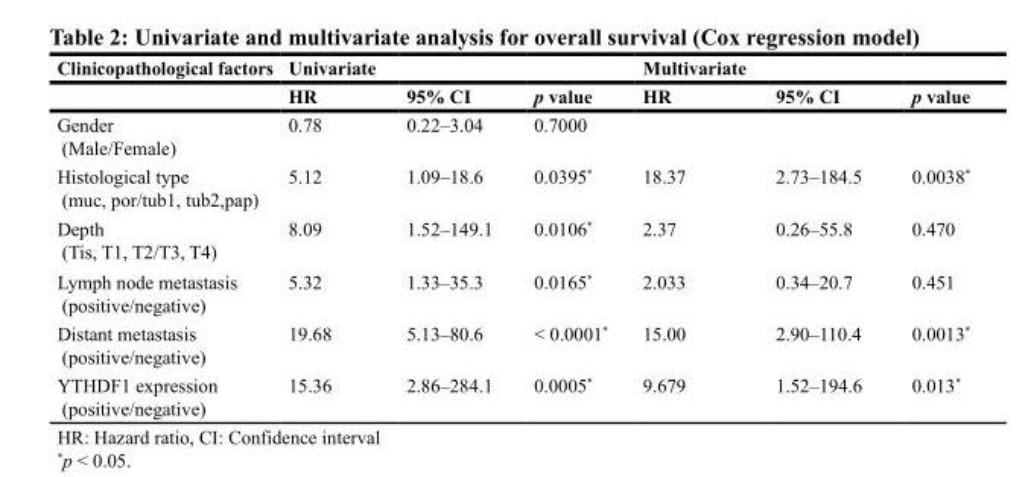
<table><thead><tr><td rowspan="2">Clinicopathological factors</td><td rowspan="2">Univariate HR</td><td rowspan="2">95% CI</td><td rowspan="2">p value</td><td rowspan="2">Multivariate HR</td><td rowspan="2">95% CI</td><td rowspan="2">p value</td></tr><tr></tr></thead><tbody><tr><td>Gender (Male/Female)</td><td>0.78</td><td>0.22‒3.04</td><td>0.7000</td><td></td><td></td><td></td></tr><tr><td>Histological type (muc, por/tub1, tub2,pap)</td><td>5.12</td><td>1.09‒18.6</td><td>0.0395*</td><td>18.37</td><td>2.73–184.5</td><td>0.0038*</td></tr><tr><td>Depth (Tis, T1, T2/T3, T4)</td><td>8.09</td><td>1.52‒149.1</td><td>0.0106*</td><td>2.37</td><td>0.26–55.8</td><td>0.470</td></tr><tr><td>Lymph node metastasis (positive/negative)</td><td>5.32</td><td>1.33‒35.3</td><td>0.0165*</td><td>2.033</td><td>0.34–20.7</td><td>0.451</td></tr><tr><td>Distant metastasis (positive/negative)</td><td>19.68</td><td>5.13‒80.6</td><td>&lt; 0.0001*</td><td>15.00</td><td>2.90–110.4</td><td>0.0013*</td></tr><tr><td>YTHDF1 expression (positive/negative)</td><td>15.36</td><td>2.86‒284.1</td><td>0.0005*</td><td>9.679</td><td>1.52–194.6</td><td>0.013*</td></tr></tbody></table>